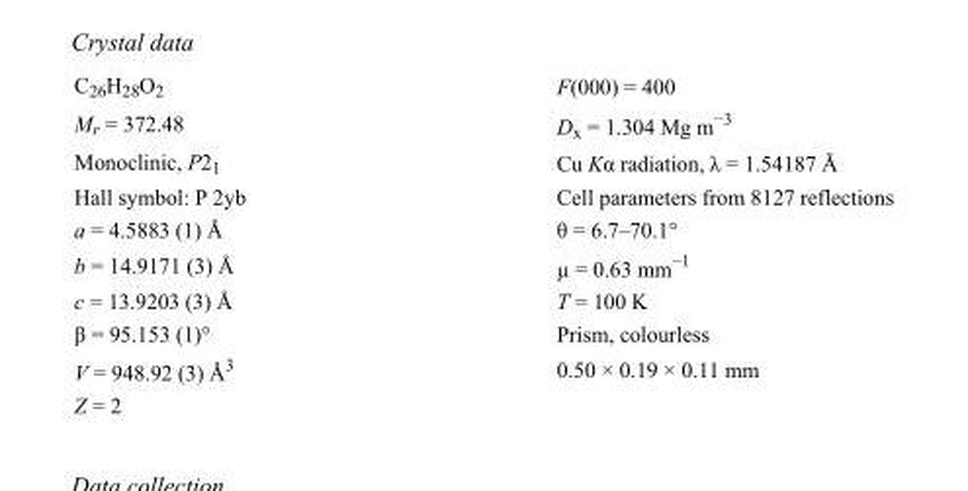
<table><tbody><tr><td>C<sub>26</sub>H<sub>28</sub>O<sub>2</sub></td><td>F(000) = 400</td></tr><tr><td>M<sub>r</sub> = 372.48</td><td>D<sub>x</sub> = 1.304 Mg m<sup>−3</sup></td></tr><tr><td>Monoclinic, P2<sub>1</sub></td><td>Cu Kα radiation, λ = 1.54187 Å</td></tr><tr><td>Hall symbol: P 2yb</td><td>Cell parameters from 8127 reflections</td></tr><tr><td>a = 4.5883 (1) Å</td><td>θ = 6.7–70.1°</td></tr><tr><td>b = 14.9171 (3) Å</td><td>µ = 0.63 mm<sup>−1</sup></td></tr><tr><td>c = 13.9203 (3) Å</td><td>T = 100 K</td></tr><tr><td>β = 95.153 (1)°</td><td>Prism, colourless</td></tr><tr><td>V = 948.92 (3) Å<sup>3</sup></td><td>0.50 × 0.19 × 0.11 mm</td></tr><tr><td>Z = 2</td><td></td></tr></tbody></table>